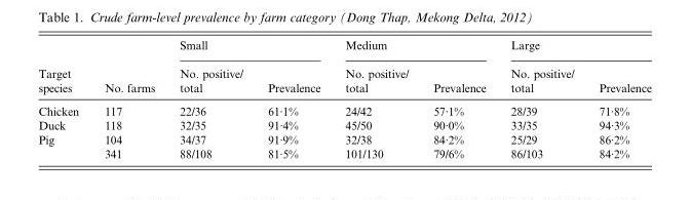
<table><thead><tr><td rowspan="2">Target species</td><td rowspan="2">No. farms</td><td colspan="2">Small</td><td colspan="2">Medium</td><td colspan="2">Large</td></tr><tr><td>No. positive/ total</td><td>Prevalence</td><td>No. positive/ total</td><td>Prevalence</td><td>No. positive/ total</td><td>Prevalence</td></tr></thead><tbody><tr><td>Chicken</td><td>117</td><td>22/36</td><td>61·1%</td><td>24/42</td><td>57·1%</td><td>28/39</td><td>71·8%</td></tr><tr><td>Duck</td><td>118</td><td>32/35</td><td>91·4%</td><td>45/50</td><td>90·0%</td><td>33/35</td><td>94·3%</td></tr><tr><td rowspan="2">Pig</td><td>104</td><td>34/37</td><td>91·9%</td><td>32/38</td><td>84·2%</td><td>25/29</td><td>86·2%</td></tr><tr><td>341</td><td>88/108</td><td>81·5%</td><td>101/130</td><td>79/6%</td><td>86/103</td><td>84·2%</td></tr></tbody></table>